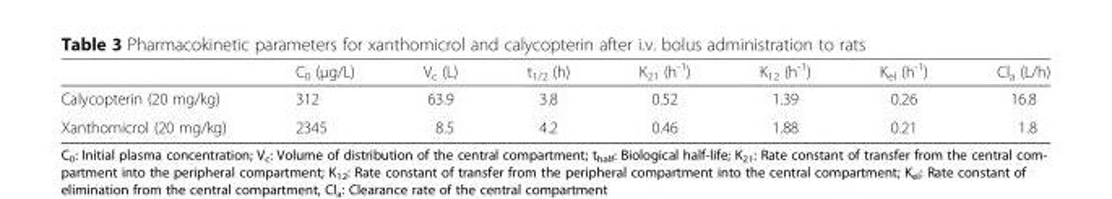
<table><thead><tr><td></td><td>C<sub>0</sub> (μg/L)</td><td>V<sub>c</sub> (L)</td><td>t<sub>1/2</sub> (h)</td><td>K<sub>21</sub> (h<sup>-1</sup>)</td><td>K<sub>12</sub> (h<sup>-1</sup>)</td><td>K<sub>el</sub> (h<sup>-1</sup>)</td><td>Cl<sub>a</sub> (L/h)</td></tr></thead><tbody><tr><td>Calycopterin (20 mg/kg)</td><td>312</td><td>63.9</td><td>3.8</td><td>0.52</td><td>1.39</td><td>0.26</td><td>16.8</td></tr><tr><td>Xanthomicrol (20 mg/kg)</td><td>2345</td><td>8.5</td><td>4.2</td><td>0.46</td><td>1.88</td><td>0.21</td><td>1.8</td></tr></tbody></table>